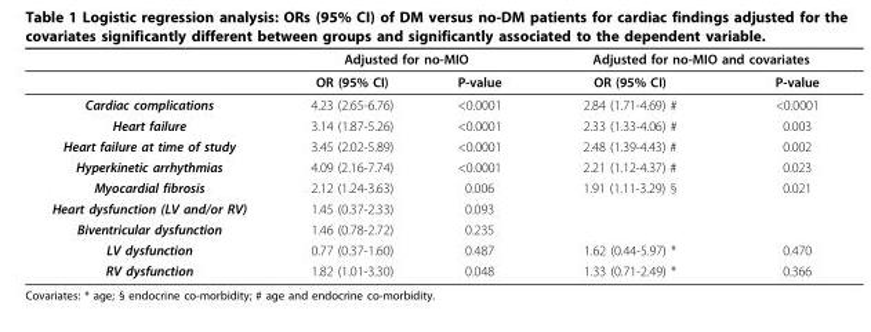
<table><thead><tr><td rowspan="2"></td><td colspan="2">Adjusted for no-MIO</td><td colspan="2">Adjusted for no-MIO and covariates</td></tr><tr><td>OR (95% CI)</td><td>P-value</td><td>OR (95% CI)</td><td>P-value</td></tr></thead><tbody><tr><td>Cardiac complications</td><td>4.23 (2.65-6.76)</td><td>&lt;0.0001</td><td>2.84 (1.71-4.69) #</td><td>&lt;0.0001</td></tr><tr><td>Heart failure</td><td>3.14 (1.87-5.26)</td><td>&lt;0.0001</td><td>2.33 (1.33-4.06) #</td><td>0.003</td></tr><tr><td>Heart failure at time of study</td><td>3.45 (2.02-5.89)</td><td>&lt;0.0001</td><td>2.48 (1.39-4.43) #</td><td>0.002</td></tr><tr><td>Hyperkinetic arrhythmias</td><td>4.09 (2.16-7.74)</td><td>&lt;0.0001</td><td>2.21 (1.12-4.37) #</td><td>0.023</td></tr><tr><td>Myocardial fibrosis</td><td>2.12 (1.24-3.63)</td><td>0.006</td><td>1.91 (1.11-3.29) §</td><td>0.021</td></tr><tr><td>Heart dysfunction (LV and/or RV)</td><td>1.45 (0.37-2.33)</td><td>0.093</td><td></td><td></td></tr><tr><td>Biventricular dysfunction</td><td>1.46 (0.78-2.72)</td><td>0.235</td><td></td><td></td></tr><tr><td>LV dysfunction</td><td>0.77 (0.37-1.60)</td><td>0.487</td><td>1.62 (0.44-5.97) *</td><td>0.470</td></tr><tr><td>RV dysfunction</td><td>1.82 (1.01-3.30)</td><td>0.048</td><td>1.33 (0.71-2.49) *</td><td>0.366</td></tr></tbody></table>